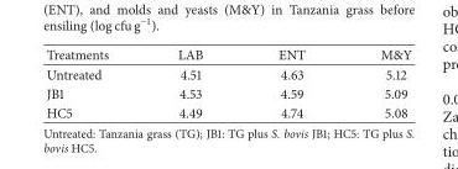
<table><thead><tr><td>Treatments</td><td>LAB</td><td>ENT</td><td>M&amp;Y</td></tr></thead><tbody><tr><td>Untreated</td><td>4.51</td><td>4.63</td><td>5.12</td></tr><tr><td>JB1</td><td>4.53</td><td>4.59</td><td>5.09</td></tr><tr><td>HC5</td><td>4.49</td><td>4.74</td><td>5.08</td></tr></tbody></table>